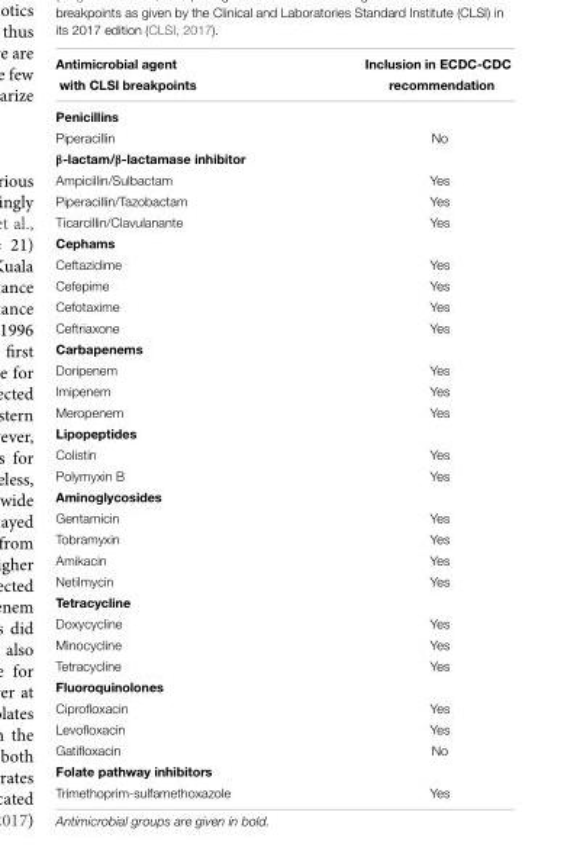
<table><thead><tr><td rowspan="2">Antimicrobial agent with CLSI breakpoints</td><td rowspan="2">Inclusion in ECDC-CDC recommendation</td></tr><tr></tr></thead><tbody><tr><td colspan="2">Penicillins</td></tr><tr><td>Piperacillin</td><td>No</td></tr><tr><td colspan="2">β-lactam/β-lactamase inhibitor</td></tr><tr><td>Ampicillin/Sulbactam</td><td>Yes</td></tr><tr><td>Piperacillin/Tazobactam</td><td>Yes</td></tr><tr><td>Ticarcillin/Clavulanante</td><td>Yes</td></tr><tr><td colspan="2">Cephams</td></tr><tr><td>Ceftazidime</td><td>Yes</td></tr><tr><td>Cefepime</td><td>Yes</td></tr><tr><td>Cefotaxime</td><td>Yes</td></tr><tr><td>Ceftriaxone</td><td>Yes</td></tr><tr><td colspan="2">Carbapenems</td></tr><tr><td>Doripenem</td><td>Yes</td></tr><tr><td>Imipenem</td><td>Yes</td></tr><tr><td>Meropenem</td><td>Yes</td></tr><tr><td colspan="2">Lipopeptides</td></tr><tr><td>Colistin</td><td>Yes</td></tr><tr><td>Polymyxin B</td><td>Yes</td></tr><tr><td colspan="2">Aminoglycosides</td></tr><tr><td>Gentamicin</td><td>Yes</td></tr><tr><td>Tobramyxin</td><td>Yes</td></tr><tr><td>Amikacin</td><td>Yes</td></tr><tr><td>Netilmycin</td><td>Yes</td></tr><tr><td colspan="2">Tetracycline</td></tr><tr><td>Doxycycline</td><td>Yes</td></tr><tr><td>Minocycline</td><td>Yes</td></tr><tr><td>Tetracycline</td><td>Yes</td></tr><tr><td colspan="2">Fluoroquinolones</td></tr><tr><td>Ciprofloxacin</td><td>Yes</td></tr><tr><td>Levofloxacin</td><td>Yes</td></tr><tr><td>Gatifloxacin</td><td>No</td></tr><tr><td colspan="2">Folate pathway inhibitors</td></tr><tr><td>Trimethoprim-sulfamethoxazole</td><td>Yes</td></tr></tbody></table>